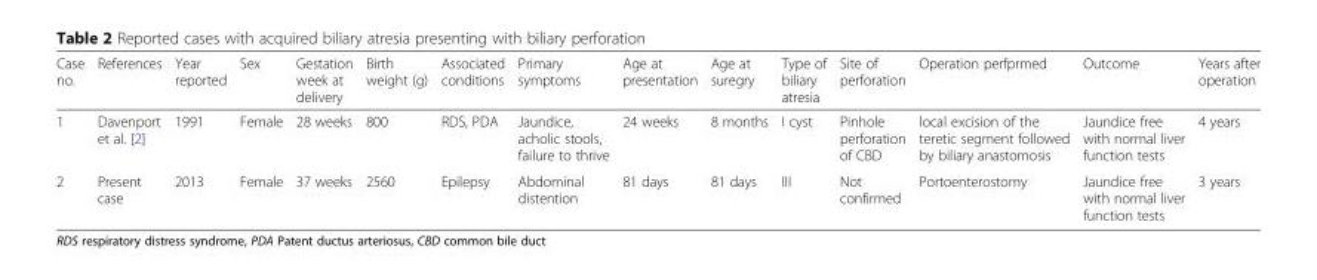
<table><thead><tr><td>Case no.</td><td>References</td><td>Year reported</td><td>Sex</td><td>Gestation week at delivery</td><td>Birth weight (g)</td><td>Associated conditions</td><td>Primary symptoms</td><td>Age at presentation</td><td>Age at suregry</td><td>Type of biliary atresia</td><td>Site of perforation</td><td>Operation perfprmed</td><td>Outcome</td><td>Years after operation</td></tr></thead><tbody><tr><td>1</td><td>Davenport et al. [2]</td><td>1991</td><td>Female</td><td>28 weeks</td><td>800</td><td>RDS, PDA</td><td>Jaundice, acholic stools, failure to thrive</td><td>24 weeks</td><td>8 months</td><td>I cyst</td><td>Pinhole perforation of CBD</td><td>local excision of the teretic segment followed by biliary anastomosis</td><td>Jaundice free with normal liver function tests</td><td>4 years</td></tr><tr><td>2</td><td>Present case</td><td>2013</td><td>Female</td><td>37 weeks</td><td>2560</td><td>Epilepsy</td><td>Abdominal distention</td><td>81 days</td><td>81 days</td><td>III</td><td>Not confirmed</td><td>Portoenterostomy</td><td>Jaundice free with normal liver function tests</td><td>3 years</td></tr></tbody></table>